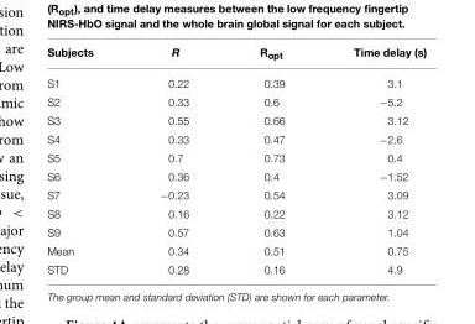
<table><thead><tr><td>Subjects</td><td>R</td><td>Ropt</td><td>Time delay (s)</td></tr></thead><tbody><tr><td>S1</td><td>0.22</td><td>0.39</td><td>3.1</td></tr><tr><td>S2</td><td>0.33</td><td>0.6</td><td>−5.2</td></tr><tr><td>S3</td><td>0.55</td><td>0.66</td><td>3.12</td></tr><tr><td>S4</td><td>0.33</td><td>0.47</td><td>−2.6</td></tr><tr><td>S5</td><td>0.7</td><td>0.73</td><td>0.4</td></tr><tr><td>S6</td><td>0.36</td><td>0.4</td><td>−1.52</td></tr><tr><td>S7</td><td>−0.23</td><td>0.54</td><td>3.09</td></tr><tr><td>S8</td><td>0.16</td><td>0.22</td><td>3.12</td></tr><tr><td>S9</td><td>0.57</td><td>0.63</td><td>1.04</td></tr><tr><td>Mean</td><td>0.34</td><td>0.51</td><td>0.75</td></tr><tr><td>STD</td><td>0.28</td><td>0.16</td><td>4.9</td></tr></tbody></table>